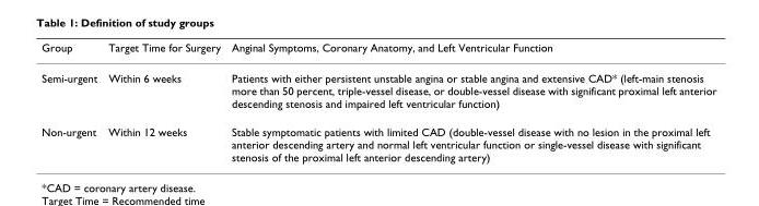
<table><thead><tr><td>Group</td><td>Target Time for Surgery</td><td>Anginal Symptoms, Coronary Anatomy, and Left Ventricular Function</td></tr></thead><tbody><tr><td>Semi-urgent</td><td>Within 6 weeks</td><td>Patients with either persistent unstable angina or stable angina and extensive CAD* (left-main stenosis more than 50 percent, triple-vessel disease, or double-vessel disease with significant proximal left anterior descending stenosis and impaired left ventricular function)</td></tr><tr><td>Non-urgent</td><td>Within 12 weeks</td><td>Stable symptomatic patients with limited CAD (double-vessel disease with no lesion in the proximal left anterior descending artery and normal left ventricular function or single-vessel disease with significant stenosis of the proximal left anterior descending artery)</td></tr></tbody></table>